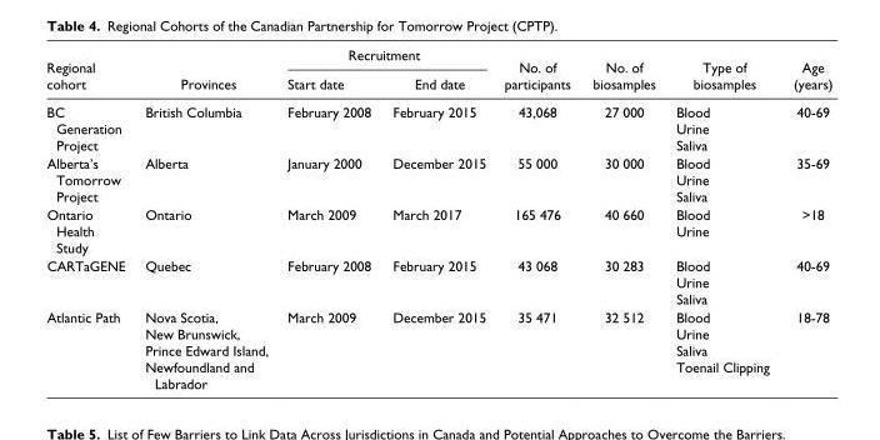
<table><thead><tr><td rowspan="2">Regional cohort</td><td rowspan="2">Provinces</td><td colspan="2">Recruitment</td><td rowspan="2">No. of participants</td><td rowspan="2">No. of biosamples</td><td rowspan="2">Type of biosamples</td><td rowspan="2">Age (years)</td></tr><tr><td>Start date</td><td>End date</td></tr></thead><tbody><tr><td>BC Generation Project</td><td>British Columbia</td><td>February 2008</td><td>February 2015</td><td>43,068</td><td>27 000</td><td>Blood Urine Saliva</td><td>40-69</td></tr><tr><td>Alberta’s Tomorrow Project</td><td>Alberta</td><td>January 2000</td><td>December 2015</td><td>55 000</td><td>30 000</td><td>Blood Urine Saliva</td><td>35-69</td></tr><tr><td>Ontario Health Study</td><td>Ontario</td><td>March 2009</td><td>March 2017</td><td>165 476</td><td>40 660</td><td>Blood Urine</td><td>&gt;18</td></tr><tr><td>CARTaGENE</td><td>Quebec</td><td>February 2008</td><td>February 2015</td><td>43 068</td><td>30 283</td><td>Blood Urine Saliva</td><td>40-69</td></tr><tr><td>Atlantic Path</td><td>Nova Scotia, New Brunswick, Prince Edward Island, Newfoundland and Labrador</td><td>March 2009</td><td>December 2015</td><td>35 471</td><td>32 512</td><td>Blood Urine Saliva Toenail Clipping</td><td>18-78</td></tr></tbody></table>